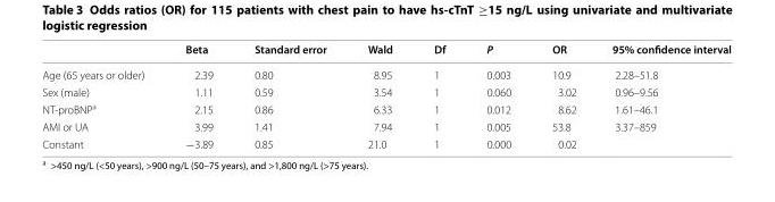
<table><thead><tr><td></td><td>Beta</td><td>Standard error</td><td>Wald</td><td>Df</td><td>P</td><td>OR</td><td>95% confidence interval</td></tr></thead><tbody><tr><td>Age (65 years or older)</td><td>2.39</td><td>0.80</td><td>8.95</td><td>1</td><td>0.003</td><td>10.9</td><td>2.28–51.8</td></tr><tr><td>Sex (male)</td><td>1.11</td><td>0.59</td><td>3.54</td><td>1</td><td>0.060</td><td>3.02</td><td>0.96–9.56</td></tr><tr><td>NT‑proBNP<sup>a</sup></td><td>2.15</td><td>0.86</td><td>6.33</td><td>1</td><td>0.012</td><td>8.62</td><td>1.61–46.1</td></tr><tr><td>AMI or UA</td><td>3.99</td><td>1.41</td><td>7.94</td><td>1</td><td>0.005</td><td>53.8</td><td>3.37–859</td></tr><tr><td>Constant</td><td>−3.89</td><td>0.85</td><td>21.0</td><td>1</td><td>0.000</td><td>0.02</td><td></td></tr></tbody></table>